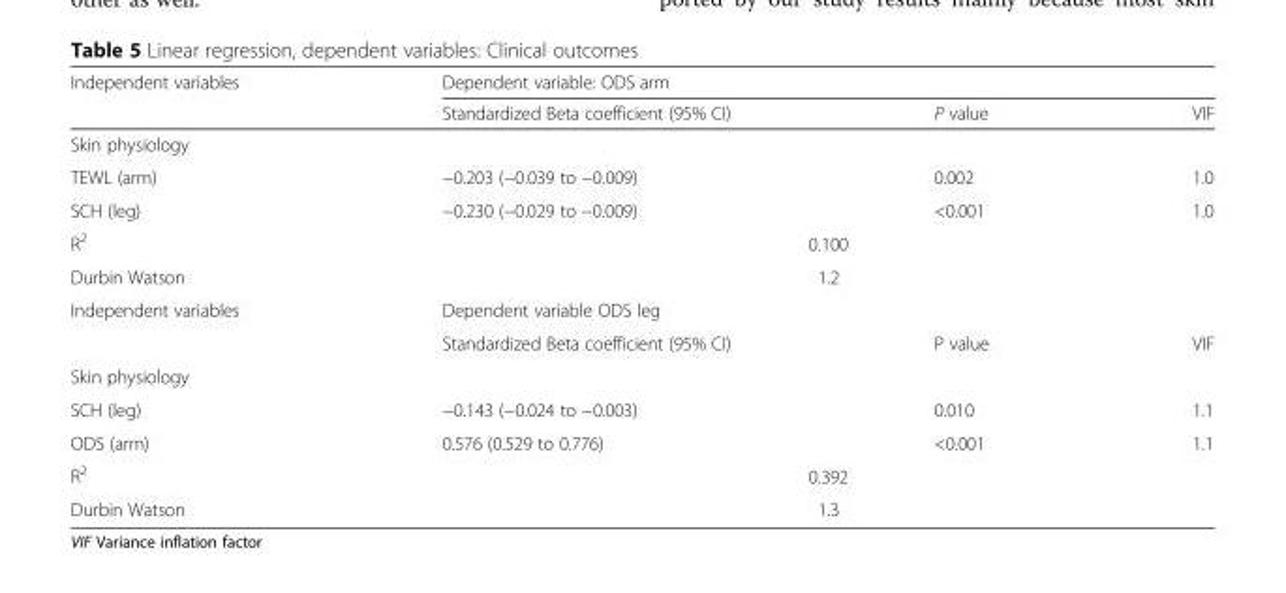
<table><thead><tr><td rowspan="2">Independent variables</td><td colspan="3">Dependent variable: ODS arm</td></tr><tr><td>Standardized Beta coefficient (95% CI)</td><td>P value</td><td>VIF</td></tr></thead><tbody><tr><td colspan="4">Skin physiology</td></tr><tr><td>TEWL (arm)</td><td>−0.203 (−0.039 to −0.009)</td><td>0.002</td><td>1.0</td></tr><tr><td>SCH (leg)</td><td>−0.230 (−0.029 to −0.009)</td><td>&lt;0.001</td><td>1.0</td></tr><tr><td>R<sup>2</sup></td><td colspan="3">0.100</td></tr><tr><td>Durbin Watson</td><td colspan="3">1.2</td></tr><tr><td rowspan="2">Independent variables</td><td colspan="3">Dependent variable ODS leg</td></tr><tr><td>Standardized Beta coefficient (95% CI)</td><td>P value</td><td>VIF</td></tr><tr><td colspan="4">Skin physiology</td></tr><tr><td>SCH (leg)</td><td>−0.143 (−0.024 to −0.003)</td><td>0.010</td><td>1.1</td></tr><tr><td>ODS (arm)</td><td>0.576 (0.529 to 0.776)</td><td>&lt;0.001</td><td>1.1</td></tr><tr><td>R<sup>2</sup></td><td colspan="3">0.392</td></tr><tr><td>Durbin Watson</td><td colspan="3">1.3</td></tr></tbody></table>